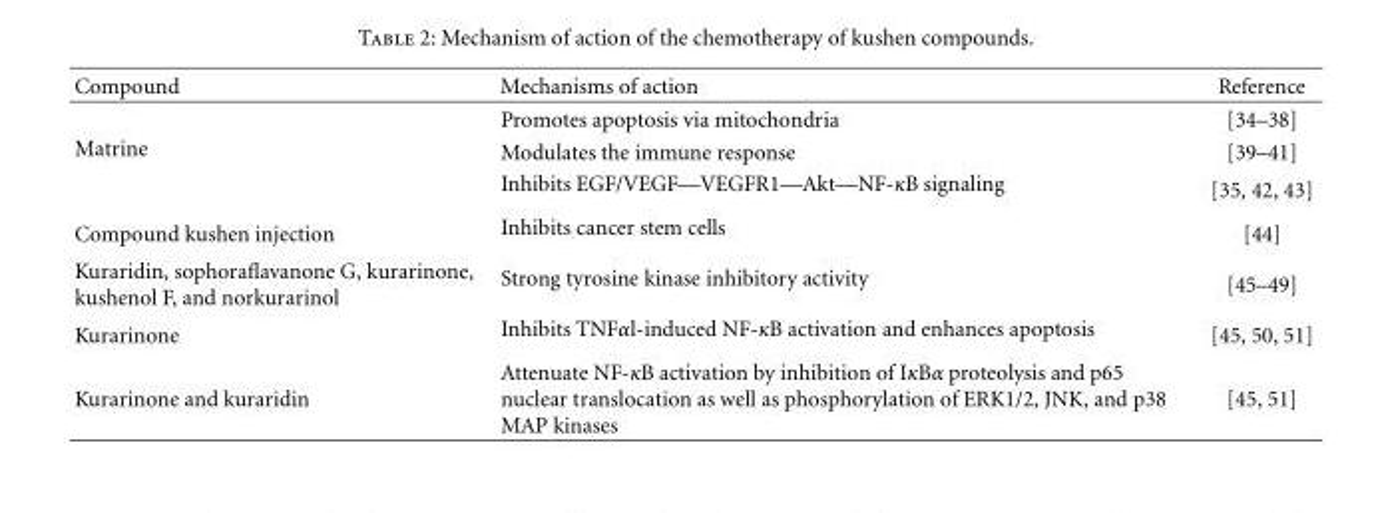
<table><thead><tr><td>Compound</td><td>Mechanisms of action</td><td>Reference</td></tr></thead><tbody><tr><td rowspan="3">Matrine</td><td>Promotes apoptosis via mitochondria</td><td>[34–38]</td></tr><tr><td>Modulates the immune response</td><td>[39–41]</td></tr><tr><td>Inhibits EGF/VEGF—VEGFR1—Akt—NF-κB signaling</td><td>[35, 42, 43]</td></tr><tr><td>Compound kushen injection</td><td>Inhibits cancer stem cells</td><td>[44]</td></tr><tr><td>Kuraridin, sophoraflavanone G, kurarinone, kushenol F, and norkurarinol</td><td>Strong tyrosine kinase inhibitory activity</td><td>[45–49]</td></tr><tr><td>Kurarinone</td><td>Inhibits TNFαl-induced NF-κB activation and enhances apoptosis</td><td>[45, 50, 51]</td></tr><tr><td>Kurarinone and kuraridin</td><td>Attenuate NF-κB activation by inhibition of IκBα proteolysis and p65 nuclear translocation as well as phosphorylation of ERK1/2, JNK, and p38 MAP kinases</td><td>[45, 51]</td></tr></tbody></table>